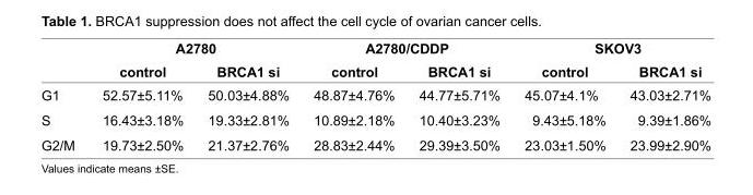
<table><thead><tr><td rowspan="2"></td><td colspan="2">A2780</td><td colspan="2">A2780/CDDP</td><td colspan="2">SKOV3</td></tr><tr><td>control</td><td>BRCA1 si</td><td>control</td><td>BRCA1 si</td><td>control</td><td>BRCA1 si</td></tr></thead><tbody><tr><td>G1</td><td>52.57±5.11%</td><td>50.03±4.88%</td><td>48.87±4.76%</td><td>44.77±5.71%</td><td>45.07±4.1%</td><td>43.03±2.71%</td></tr><tr><td>S</td><td>16.43±3.18%</td><td>19.33±2.81%</td><td>10.89±2.18%</td><td>10.40±3.23%</td><td>9.43±5.18%</td><td>9.39±1.86%</td></tr><tr><td>G2/M</td><td>19.73±2.50%</td><td>21.37±2.76%</td><td>28.83±2.44%</td><td>29.39±3.50%</td><td>23.03±1.50%</td><td>23.99±2.90%</td></tr></tbody></table>